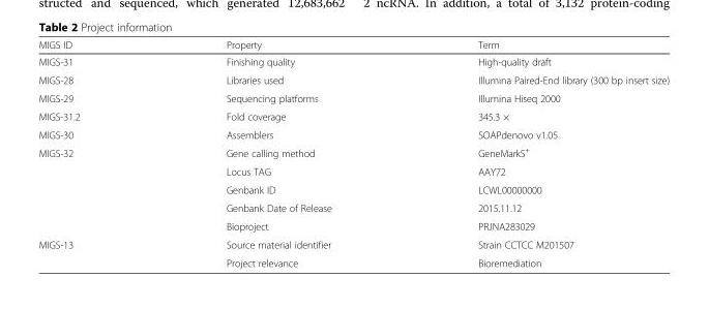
<table><thead><tr><td>MIGS ID</td><td>Property</td><td>Term</td></tr></thead><tbody><tr><td>MIGS-31</td><td>Finishing quality</td><td>High-quality draft</td></tr><tr><td>MIGS-28</td><td>Libraries used</td><td>Illumina Paired-End library (300 bp insert size)</td></tr><tr><td>MIGS-29</td><td>Sequencing platforms</td><td>Illumina Hiseq 2000</td></tr><tr><td>MIGS-31.2</td><td>Fold coverage</td><td>345.3 ×</td></tr><tr><td>MIGS-30</td><td>Assemblers</td><td>SOAPdenovo v1.05</td></tr><tr><td rowspan="5">MIGS-32</td><td>Gene calling method</td><td>GeneMarkS<sup>+</sup></td></tr><tr><td>Locus TAG</td><td>AAY72</td></tr><tr><td>Genbank ID</td><td>LCWL00000000</td></tr><tr><td>Genbank Date of Release</td><td>2015.11.12</td></tr><tr><td>Bioproject</td><td>PRJNA283029</td></tr><tr><td rowspan="2">MIGS-13</td><td>Source material identifier</td><td>Strain CCTCC M201507</td></tr><tr><td>Project relevance</td><td>Bioremediation</td></tr></tbody></table>